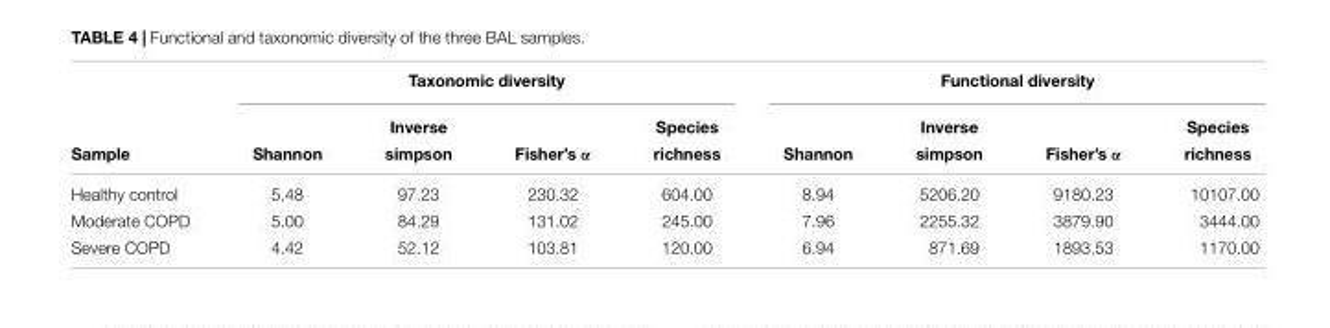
<table><thead><tr><td rowspan="3">Sample</td><td colspan="4">Taxonomic diversity</td><td colspan="4">Functional diversity</td></tr><tr><td rowspan="2">Shannon</td><td rowspan="2">Inverse simpson</td><td rowspan="2">Fisher’s α</td><td rowspan="2">Species richness</td><td rowspan="2">Shannon</td><td rowspan="2">Inverse simpson</td><td rowspan="2">Fisher’s α</td><td rowspan="2">Species richness</td></tr><tr></tr></thead><tbody><tr><td>Healthy control</td><td>5.48</td><td>97.23</td><td>230.32</td><td>604.00</td><td>8.94</td><td>5206.20</td><td>9180.23</td><td>10107.00</td></tr><tr><td>Moderate COPD</td><td>5.00</td><td>84.29</td><td>131.02</td><td>245.00</td><td>7.96</td><td>2255.32</td><td>3879.90</td><td>3444.00</td></tr><tr><td>Severe COPD</td><td>4.42</td><td>52.12</td><td>103.81</td><td>120.00</td><td>6.94</td><td>871.69</td><td>1893.53</td><td>1170.00</td></tr></tbody></table>